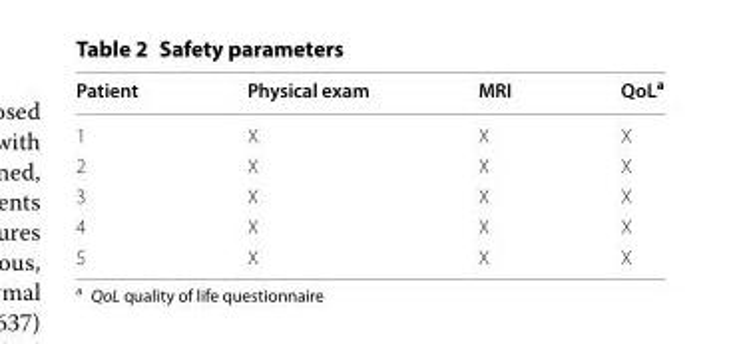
<table><thead><tr><td>Patient</td><td>Physical exam</td><td>MRI</td><td>QoL<sup>a</sup></td></tr></thead><tbody><tr><td>1</td><td>X</td><td>X</td><td>X</td></tr><tr><td>2</td><td>X</td><td>X</td><td>X</td></tr><tr><td>3</td><td>X</td><td>X</td><td>X</td></tr><tr><td>4</td><td>X</td><td>X</td><td>X</td></tr><tr><td>5</td><td>X</td><td>X</td><td>X</td></tr></tbody></table>